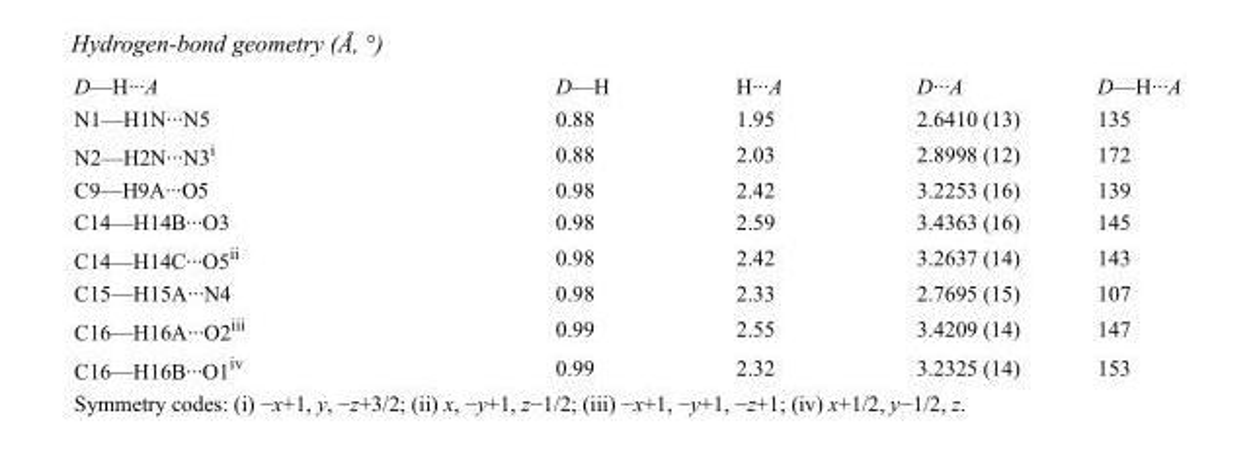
<table><tbody><tr><td>D—H···A</td><td>D—H</td><td>H···A</td><td>D···A</td><td>D—H···A</td></tr><tr><td>N1—H1N···N5</td><td>0.88</td><td>1.95</td><td>2.6410 (13)</td><td>135</td></tr><tr><td>N2—H2N···N3<sup>i</sup></td><td>0.88</td><td>2.03</td><td>2.8998 (12)</td><td>172</td></tr><tr><td>C9—H9A···O5</td><td>0.98</td><td>2.42</td><td>3.2253 (16)</td><td>139</td></tr><tr><td>C14—H14B···O3</td><td>0.98</td><td>2.59</td><td>3.4363 (16)</td><td>145</td></tr><tr><td>C14—H14C···O5<sup>ii</sup></td><td>0.98</td><td>2.42</td><td>3.2637 (14)</td><td>143</td></tr><tr><td>C15—H15A···N4</td><td>0.98</td><td>2.33</td><td>2.7695 (15)</td><td>107</td></tr><tr><td>C16—H16A···O2<sup>iii</sup></td><td>0.99</td><td>2.55</td><td>3.4209 (14)</td><td>147</td></tr><tr><td>C16—H16B···O1<sup>iv</sup></td><td>0.99</td><td>2.32</td><td>3.2325 (14)</td><td>153</td></tr></tbody></table>